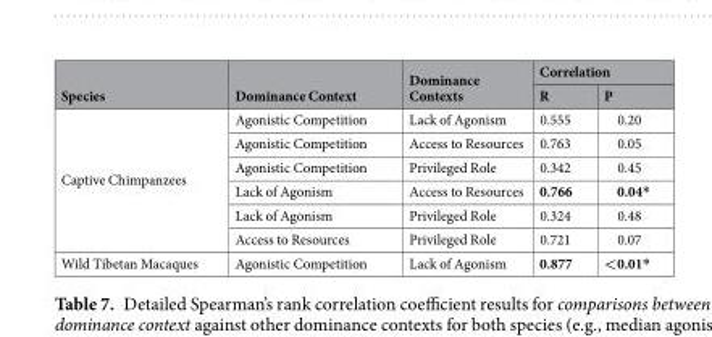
<table><thead><tr><td rowspan="2">Species</td><td rowspan="2">Dominance Context</td><td rowspan="2">Dominance Contexts</td><td colspan="2">Correlation</td></tr><tr><td>R</td><td>P</td></tr></thead><tbody><tr><td rowspan="6">Captive Chimpanzees</td><td>Agonistic Competition</td><td>Lack of Agonism</td><td>0.555</td><td>0.20</td></tr><tr><td>Agonistic Competition</td><td>Access to Resources</td><td>0.763</td><td>0.05</td></tr><tr><td>Agonistic Competition</td><td>Privileged Role</td><td>0.342</td><td>0.45</td></tr><tr><td>Lack of Agonism</td><td>Access to Resources</td><td>0.766</td><td>0.04*</td></tr><tr><td>Lack of Agonism</td><td>Privileged Role</td><td>0.324</td><td>0.48</td></tr><tr><td>Access to Resources</td><td>Privileged Role</td><td>0.721</td><td>0.07</td></tr><tr><td>Wild Tibetan Macaques</td><td>Agonistic Competition</td><td>Lack of Agonism</td><td>0.877</td><td>&lt;0.01*</td></tr></tbody></table>